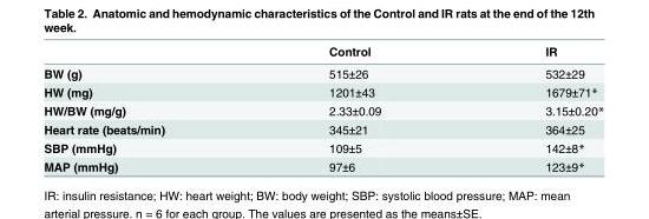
<table><thead><tr><td></td><td>Control</td><td>IR</td></tr></thead><tbody><tr><td>BW (g)</td><td>515±26</td><td>532±29</td></tr><tr><td>HW (mg)</td><td>1201±43</td><td>1679±71*</td></tr><tr><td>HW/BW (mg/g)</td><td>2.33±0.09</td><td>3.15±0.20*</td></tr><tr><td>Heart rate (beats/min)</td><td>345±21</td><td>364±25</td></tr><tr><td>SBP (mmHg)</td><td>109±5</td><td>142±8*</td></tr><tr><td>MAP (mmHg)</td><td>97±6</td><td>123±9*</td></tr></tbody></table>